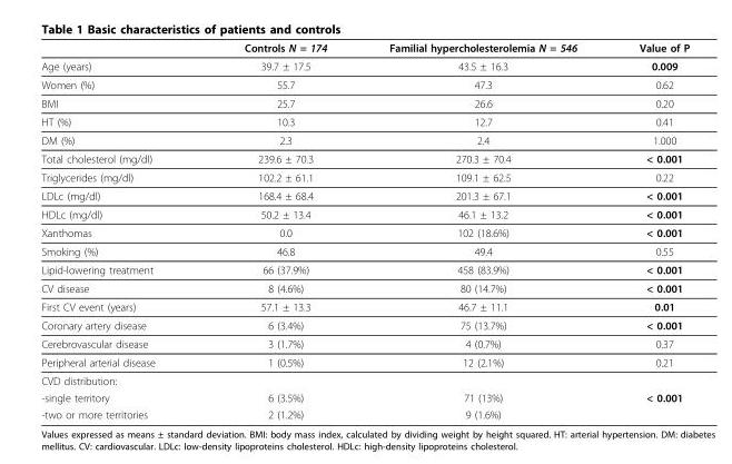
<table><thead><tr><td></td><td>Controls N = 174</td><td>Familial hypercholesterolemia N = 546</td><td>Value of P</td></tr></thead><tbody><tr><td>Age (years)</td><td>39.7 ± 17.5</td><td>43.5 ± 16.3</td><td>0.009</td></tr><tr><td>Women (%)</td><td>55.7</td><td>47.3</td><td>0.62</td></tr><tr><td>BMI</td><td>25.7</td><td>26.6</td><td>0.20</td></tr><tr><td>HT (%)</td><td>10.3</td><td>12.7</td><td>0.41</td></tr><tr><td>DM (%)</td><td>2.3</td><td>2.4</td><td>1.000</td></tr><tr><td>Total cholesterol (mg/dl)</td><td>239.6 ± 70.3</td><td>270.3 ± 70.4</td><td>&lt; 0.001</td></tr><tr><td>Triglycerides (mg/dl)</td><td>102.2 ± 61.1</td><td>109.1 ± 62.5</td><td>0.22</td></tr><tr><td>LDLc (mg/dl)</td><td>168.4 ± 68.4</td><td>201.3 ± 67.1</td><td>&lt; 0.001</td></tr><tr><td>HDLc (mg/dl)</td><td>50.2 ± 13.4</td><td>46.1 ± 13.2</td><td>&lt; 0.001</td></tr><tr><td>Xanthomas</td><td>0.0</td><td>102 (18.6%)</td><td>&lt; 0.001</td></tr><tr><td>Smoking (%)</td><td>46.8</td><td>49.4</td><td>0.55</td></tr><tr><td>Lipid-lowering treatment</td><td>66 (37.9%)</td><td>458 (83.9%)</td><td>&lt; 0.001</td></tr><tr><td>CV disease</td><td>8 (4.6%)</td><td>80 (14.7%)</td><td>&lt; 0.001</td></tr><tr><td>First CV event (years)</td><td>57.1 ± 13.3</td><td>46.7 ± 11.1</td><td>0.01</td></tr><tr><td>Coronary artery disease</td><td>6 (3.4%)</td><td>75 (13.7%)</td><td>&lt; 0.001</td></tr><tr><td>Cerebrovascular disease</td><td>3 (1.7%)</td><td>4 (0.7%)</td><td>0.37</td></tr><tr><td>Peripheral arterial disease</td><td>1 (0.5%)</td><td>12 (2.1%)</td><td>0.21</td></tr><tr><td colspan="4">CVD distribution:</td></tr><tr><td>-single territory</td><td>6 (3.5%)</td><td>71 (13%)</td><td>&lt; 0.001</td></tr><tr><td>-two or more territories</td><td>2 (1.2%)</td><td>9 (1.6%)</td><td></td></tr></tbody></table>